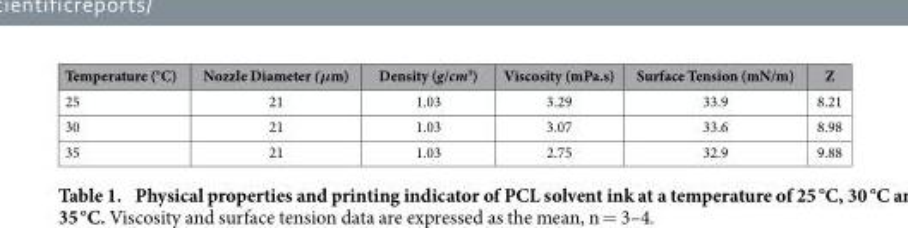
<table><thead><tr><td>Temperature (°C)</td><td>Nozzle Diameter (μm)</td><td>Density (g/cm<sup>3</sup>)</td><td>Viscosity (mPa.s)</td><td>Surface Tension (mN/m)</td><td>Z</td></tr></thead><tbody><tr><td>25</td><td>21</td><td>1.03</td><td>3.29</td><td>33.9</td><td>8.21</td></tr><tr><td>30</td><td>21</td><td>1.03</td><td>3.07</td><td>33.6</td><td>8.98</td></tr><tr><td>35</td><td>21</td><td>1.03</td><td>2.75</td><td>32.9</td><td>9.88</td></tr></tbody></table>